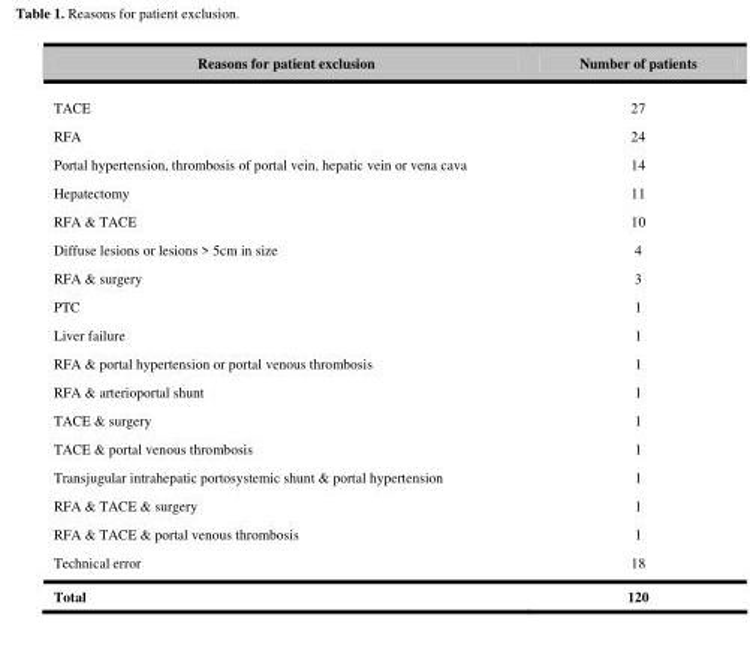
<table><thead><tr><td>Reasons for patient exclusion</td><td>Number of patients</td></tr></thead><tbody><tr><td>TACE</td><td>27</td></tr><tr><td>RFA</td><td>24</td></tr><tr><td>Portal hypertension, thrombosis of portal vein, hepatic vein or vena cava</td><td>14</td></tr><tr><td>Hepatectomy</td><td>11</td></tr><tr><td>RFA &amp; TACE</td><td>10</td></tr><tr><td>Diffuse lesions or lesions &gt; 5cm in size</td><td>4</td></tr><tr><td>RFA &amp; surgery</td><td>3</td></tr><tr><td>PTC</td><td>1</td></tr><tr><td>Liver failure</td><td>1</td></tr><tr><td>RFA &amp; portal hypertension or portal venous thrombosis</td><td>1</td></tr><tr><td>RFA &amp; arterioportal shunt</td><td>1</td></tr><tr><td>TACE &amp; surgery</td><td>1</td></tr><tr><td>TACE &amp; portal venous thrombosis</td><td>1</td></tr><tr><td>Transjugular intrahepatic portosystemic shunt &amp; portal hypertension</td><td>1</td></tr><tr><td>RFA &amp; TACE &amp; surgery</td><td>1</td></tr><tr><td>RFA &amp; TACE &amp; portal venous thrombosis</td><td>1</td></tr><tr><td>Technical error</td><td>18</td></tr><tr><td>Total</td><td>120</td></tr></tbody></table>